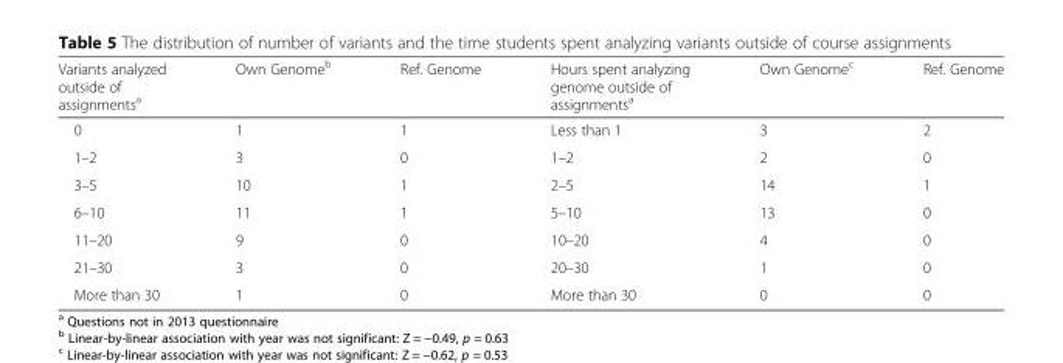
<table><thead><tr><td>Variants analyzed outside of assignments<sup>a</sup></td><td>Own Genome<sup>b</sup></td><td>Ref. Genome</td><td>Hours spent analyzing genome outside of assignments<sup>a</sup></td><td>Own Genome<sup>c</sup></td><td>Ref. Genome</td></tr></thead><tbody><tr><td>0</td><td>1</td><td>1</td><td>Less than 1</td><td>3</td><td>2</td></tr><tr><td>1–2</td><td>3</td><td>0</td><td>1–2</td><td>2</td><td>0</td></tr><tr><td>3–5</td><td>10</td><td>1</td><td>2–5</td><td>14</td><td>1</td></tr><tr><td>6–10</td><td>11</td><td>1</td><td>5–10</td><td>13</td><td>0</td></tr><tr><td>11–20</td><td>9</td><td>0</td><td>10–20</td><td>4</td><td>0</td></tr><tr><td>21–30</td><td>3</td><td>0</td><td>20–30</td><td>1</td><td>0</td></tr><tr><td>More than 30</td><td>1</td><td>0</td><td>More than 30</td><td>0</td><td>0</td></tr></tbody></table>